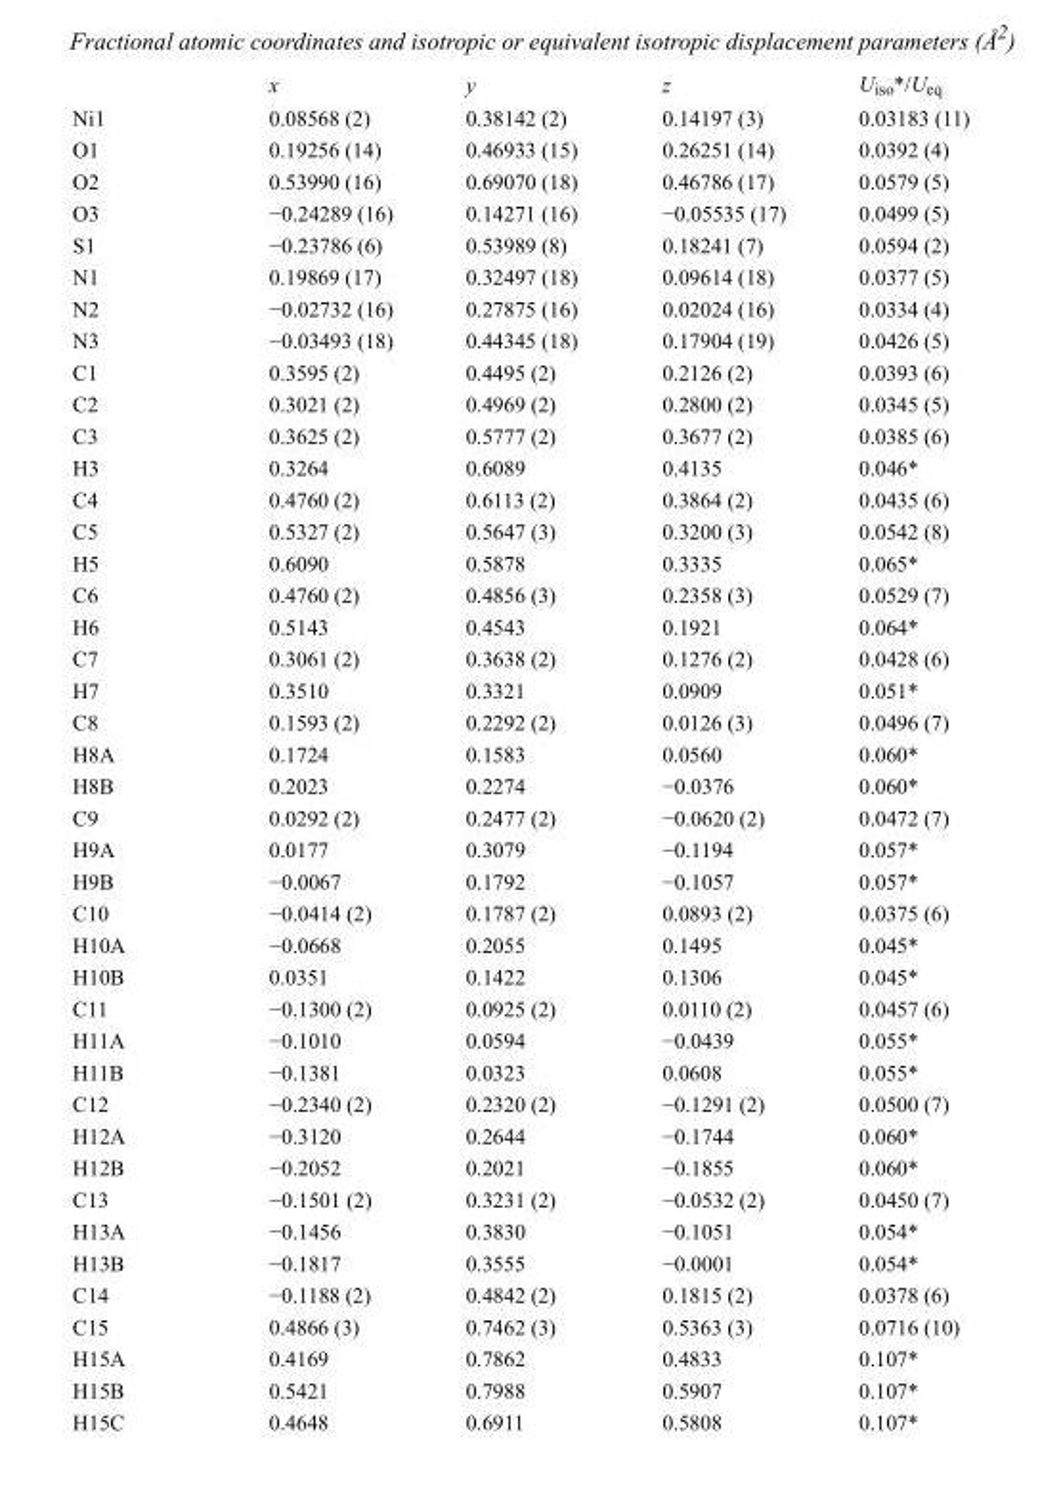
<table><thead><tr><td></td><td>x</td><td>y</td><td>z</td><td>U<sub>iso</sub>*/U<sub>eq</sub></td></tr></thead><tbody><tr><td>Ni1</td><td>0.08568 (2)</td><td>0.38142 (2)</td><td>0.14197 (3)</td><td>0.03183 (11)</td></tr><tr><td>O1</td><td>0.19256 (14)</td><td>0.46933 (15)</td><td>0.26251 (14)</td><td>0.0392 (4)</td></tr><tr><td>O2</td><td>0.53990 (16)</td><td>0.69070 (18)</td><td>0.46786 (17)</td><td>0.0579 (5)</td></tr><tr><td>O3</td><td>−0.24289 (16)</td><td>0.14271 (16)</td><td>−0.05535 (17)</td><td>0.0499 (5)</td></tr><tr><td>S1</td><td>−0.23786 (6)</td><td>0.53989 (8)</td><td>0.18241 (7)</td><td>0.0594 (2)</td></tr><tr><td>N1</td><td>0.19869 (17)</td><td>0.32497 (18)</td><td>0.09614 (18)</td><td>0.0377 (5)</td></tr><tr><td>N2</td><td>−0.02732 (16)</td><td>0.27875 (16)</td><td>0.02024 (16)</td><td>0.0334 (4)</td></tr><tr><td>N3</td><td>−0.03493 (18)</td><td>0.44345 (18)</td><td>0.17904 (19)</td><td>0.0426 (5)</td></tr><tr><td>C1</td><td>0.3595 (2)</td><td>0.4495 (2)</td><td>0.2126 (2)</td><td>0.0393 (6)</td></tr><tr><td>C2</td><td>0.3021 (2)</td><td>0.4969 (2)</td><td>0.2800 (2)</td><td>0.0345 (5)</td></tr><tr><td>C3</td><td>0.3625 (2)</td><td>0.5777 (2)</td><td>0.3677 (2)</td><td>0.0385 (6)</td></tr><tr><td>H3</td><td>0.3264</td><td>0.6089</td><td>0.4135</td><td>0.046*</td></tr><tr><td>C4</td><td>0.4760 (2)</td><td>0.6113 (2)</td><td>0.3864 (2)</td><td>0.0435 (6)</td></tr><tr><td>C5</td><td>0.5327 (2)</td><td>0.5647 (3)</td><td>0.3200 (3)</td><td>0.0542 (8)</td></tr><tr><td>H5</td><td>0.6090</td><td>0.5878</td><td>0.3335</td><td>0.065*</td></tr><tr><td>C6</td><td>0.4760 (2)</td><td>0.4856 (3)</td><td>0.2358 (3)</td><td>0.0529 (7)</td></tr><tr><td>H6</td><td>0.5143</td><td>0.4543</td><td>0.1921</td><td>0.064*</td></tr><tr><td>C7</td><td>0.3061 (2)</td><td>0.3638 (2)</td><td>0.1276 (2)</td><td>0.0428 (6)</td></tr><tr><td>H7</td><td>0.3510</td><td>0.3321</td><td>0.0909</td><td>0.051*</td></tr><tr><td>C8</td><td>0.1593 (2)</td><td>0.2292 (2)</td><td>0.0126 (3)</td><td>0.0496 (7)</td></tr><tr><td>H8A</td><td>0.1724</td><td>0.1583</td><td>0.0560</td><td>0.060*</td></tr><tr><td>H8B</td><td>0.2023</td><td>0.2274</td><td>−0.0376</td><td>0.060*</td></tr><tr><td>C9</td><td>0.0292 (2)</td><td>0.2477 (2)</td><td>−0.0620 (2)</td><td>0.0472 (7)</td></tr><tr><td>H9A</td><td>0.0177</td><td>0.3079</td><td>−0.1194</td><td>0.057*</td></tr><tr><td>H9B</td><td>−0.0067</td><td>0.1792</td><td>−0.1057</td><td>0.057*</td></tr><tr><td>C10</td><td>−0.0414 (2)</td><td>0.1787 (2)</td><td>0.0893 (2)</td><td>0.0375 (6)</td></tr><tr><td>H10A</td><td>−0.0668</td><td>0.2055</td><td>0.1495</td><td>0.045*</td></tr><tr><td>H10B</td><td>0.0351</td><td>0.1422</td><td>0.1306</td><td>0.045*</td></tr><tr><td>C11</td><td>−0.1300 (2)</td><td>0.0925 (2)</td><td>0.0110 (2)</td><td>0.0457 (6)</td></tr><tr><td>H11A</td><td>−0.1010</td><td>0.0594</td><td>−0.0439</td><td>0.055*</td></tr><tr><td>H11B</td><td>−0.1381</td><td>0.0323</td><td>0.0608</td><td>0.055*</td></tr><tr><td>C12</td><td>−0.2340 (2)</td><td>0.2320 (2)</td><td>−0.1291 (2)</td><td>0.0500 (7)</td></tr><tr><td>H12A</td><td>−0.3120</td><td>0.2644</td><td>−0.1744</td><td>0.060*</td></tr><tr><td>H12B</td><td>−0.2052</td><td>0.2021</td><td>−0.1855</td><td>0.060*</td></tr><tr><td>C13</td><td>−0.1501 (2)</td><td>0.3231 (2)</td><td>−0.0532 (2)</td><td>0.0450 (7)</td></tr><tr><td>H13A</td><td>−0.1456</td><td>0.3830</td><td>−0.1051</td><td>0.054*</td></tr><tr><td>H13B</td><td>−0.1817</td><td>0.3555</td><td>−0.0001</td><td>0.054*</td></tr><tr><td>C14</td><td>−0.1188 (2)</td><td>0.4842 (2)</td><td>0.1815 (2)</td><td>0.0378 (6)</td></tr><tr><td>C15</td><td>0.4866 (3)</td><td>0.7462 (3)</td><td>0.5363 (3)</td><td>0.0716 (10)</td></tr><tr><td>H15A</td><td>0.4169</td><td>0.7862</td><td>0.4833</td><td>0.107*</td></tr><tr><td>H15B</td><td>0.5421</td><td>0.7988</td><td>0.5907</td><td>0.107*</td></tr><tr><td>H15C</td><td>0.4648</td><td>0.6911</td><td>0.5808</td><td>0.107*</td></tr></tbody></table>